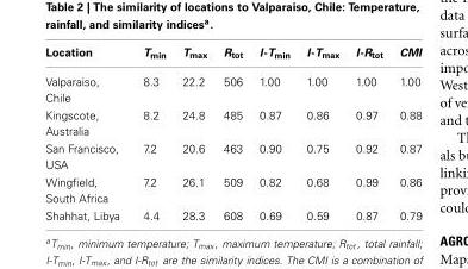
<table><thead><tr><td>Location</td><td>Tmin</td><td>Tmax</td><td>Rtot</td><td>I-Tmin</td><td>I-Tmax</td><td>I-Rtot</td><td>CMI</td></tr></thead><tbody><tr><td>Valparaiso, Chile</td><td>8.3</td><td>22.2</td><td>506</td><td>1.00</td><td>1.00</td><td>1.00</td><td>1.00</td></tr><tr><td>Kingscote, Australia</td><td>8.2</td><td>24.8</td><td>485</td><td>0.87</td><td>0.86</td><td>0.97</td><td>0.88</td></tr><tr><td>San Francisco, USA</td><td>7.2</td><td>20.6</td><td>463</td><td>0.90</td><td>0.75</td><td>0.92</td><td>0.87</td></tr><tr><td>Wingfield, South Africa</td><td>7.2</td><td>26.1</td><td>509</td><td>0.82</td><td>0.68</td><td>0.99</td><td>0.86</td></tr><tr><td>Shahhat, Libya</td><td>4.4</td><td>28.3</td><td>608</td><td>0.69</td><td>0.59</td><td>0.87</td><td>0.79</td></tr></tbody></table>